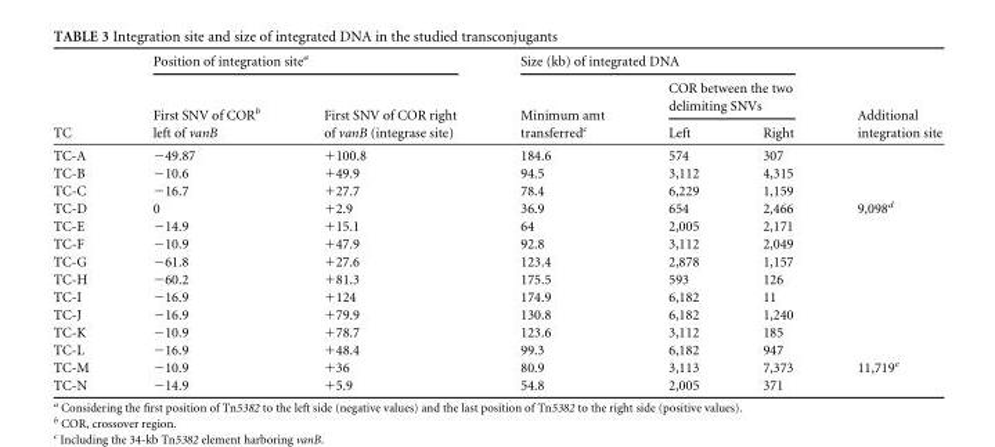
<table><thead><tr><td rowspan="3">TC</td><td colspan="2">Position of integration site<sup>a</sup></td><td colspan="3">Size (kb) of integrated DNA</td><td rowspan="3">Additional integration site</td></tr><tr><td rowspan="2">First SNV of COR<sup>b</sup> left of vanB</td><td rowspan="2">First SNV of COR right of vanB (integrase site)</td><td rowspan="2">Minimum amt transferred<sup>c</sup></td><td colspan="2">COR between the two delimiting SNVs</td></tr><tr><td>Left</td><td>Right</td></tr></thead><tbody><tr><td>TC-A</td><td>−49.87</td><td>+100.8</td><td>184.6</td><td>574</td><td>307</td><td></td></tr><tr><td>TC-B</td><td>−10.6</td><td>+49.9</td><td>94.5</td><td>3,112</td><td>4,315</td><td></td></tr><tr><td>TC-C</td><td>−16.7</td><td>+27.7</td><td>78.4</td><td>6,229</td><td>1,159</td><td></td></tr><tr><td>TC-D</td><td>0</td><td>+2.9</td><td>36.9</td><td>654</td><td>2,466</td><td>9,098<sup>d</sup></td></tr><tr><td>TC-E</td><td>−14.9</td><td>+15.1</td><td>64</td><td>2,005</td><td>2,171</td><td></td></tr><tr><td>TC-F</td><td>−10.9</td><td>+47.9</td><td>92.8</td><td>3,112</td><td>2,049</td><td></td></tr><tr><td>TC-G</td><td>−61.8</td><td>+27.6</td><td>123.4</td><td>2,878</td><td>1,157</td><td></td></tr><tr><td>TC-H</td><td>−60.2</td><td>+81.3</td><td>175.5</td><td>593</td><td>126</td><td></td></tr><tr><td>TC-I</td><td>−16.9</td><td>+124</td><td>174.9</td><td>6,182</td><td>11</td><td></td></tr><tr><td>TC-J</td><td>−16.9</td><td>+79.9</td><td>130.8</td><td>6,182</td><td>1,240</td><td></td></tr><tr><td>TC-K</td><td>−10.9</td><td>+78.7</td><td>123.6</td><td>3,112</td><td>185</td><td></td></tr><tr><td>TC-L</td><td>−16.9</td><td>+48.4</td><td>99.3</td><td>6,182</td><td>947</td><td></td></tr><tr><td>TC-M</td><td>−10.9</td><td>+36</td><td>80.9</td><td>3,113</td><td>7,373</td><td>11,719<sup>e</sup></td></tr><tr><td>TC-N</td><td>−14.9</td><td>+5.9</td><td>54.8</td><td>2,005</td><td>371</td><td></td></tr></tbody></table>